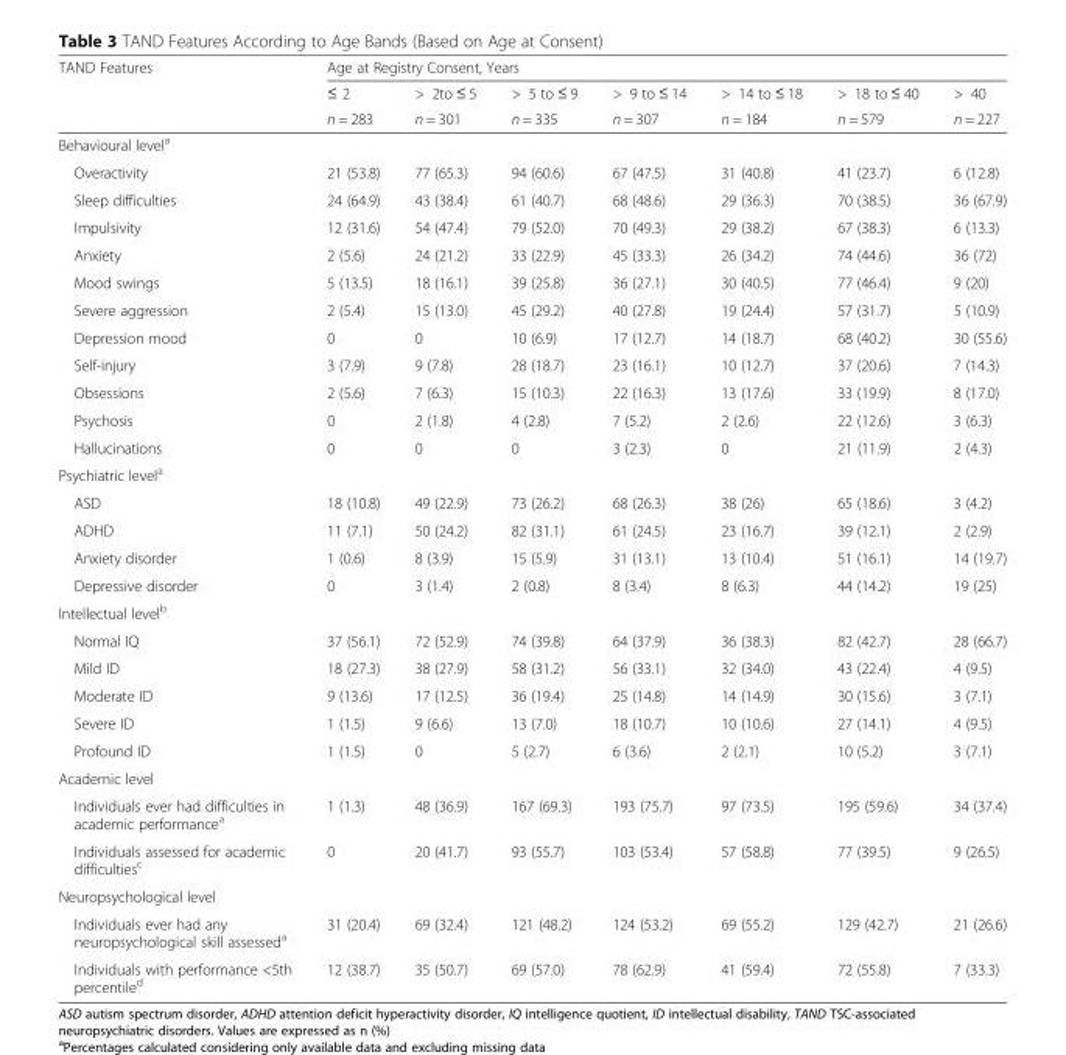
<table><thead><tr><td rowspan="3">TAND Features</td><td colspan="7">Age at Registry Consent, Years</td></tr><tr><td rowspan="2">≤ 2 n = 283</td><td rowspan="2">&gt; 2to ≤ 5 n = 301</td><td rowspan="2">&gt; 5 to ≤ 9 n = 335</td><td rowspan="2">&gt; 9 to ≤ 14 n = 307</td><td rowspan="2">&gt; 14 to ≤ 18 n = 184</td><td rowspan="2">&gt; 18 to ≤ 40 n = 579</td><td rowspan="2">&gt; 40 n = 227</td></tr><tr></tr></thead><tbody><tr><td colspan="8">Behavioural level<sup>a</sup></td></tr><tr><td>Overactivity</td><td>21 (53.8)</td><td>77 (65.3)</td><td>94 (60.6)</td><td>67 (47.5)</td><td>31 (40.8)</td><td>41 (23.7)</td><td>6 (12.8)</td></tr><tr><td>Sleep difficulties</td><td>24 (64.9)</td><td>43 (38.4)</td><td>61 (40.7)</td><td>68 (48.6)</td><td>29 (36.3)</td><td>70 (38.5)</td><td>36 (67.9)</td></tr><tr><td>Impulsivity</td><td>12 (31.6)</td><td>54 (47.4)</td><td>79 (52.0)</td><td>70 (49.3)</td><td>29 (38.2)</td><td>67 (38.3)</td><td>6 (13.3)</td></tr><tr><td>Anxiety</td><td>2 (5.6)</td><td>24 (21.2)</td><td>33 (22.9)</td><td>45 (33.3)</td><td>26 (34.2)</td><td>74 (44.6)</td><td>36 (72)</td></tr><tr><td>Mood swings</td><td>5 (13.5)</td><td>18 (16.1)</td><td>39 (25.8)</td><td>36 (27.1)</td><td>30 (40.5)</td><td>77 (46.4)</td><td>9 (20)</td></tr><tr><td>Severe aggression</td><td>2 (5.4)</td><td>15 (13.0)</td><td>45 (29.2)</td><td>40 (27.8)</td><td>19 (24.4)</td><td>57 (31.7)</td><td>5 (10.9)</td></tr><tr><td>Depression mood</td><td>0</td><td>0</td><td>10 (6.9)</td><td>17 (12.7)</td><td>14 (18.7)</td><td>68 (40.2)</td><td>30 (55.6)</td></tr><tr><td>Self-injury</td><td>3 (7.9)</td><td>9 (7.8)</td><td>28 (18.7)</td><td>23 (16.1)</td><td>10 (12.7)</td><td>37 (20.6)</td><td>7 (14.3)</td></tr><tr><td>Obsessions</td><td>2 (5.6)</td><td>7 (6.3)</td><td>15 (10.3)</td><td>22 (16.3)</td><td>13 (17.6)</td><td>33 (19.9)</td><td>8 (17.0)</td></tr><tr><td>Psychosis</td><td>0</td><td>2 (1.8)</td><td>4 (2.8)</td><td>7 (5.2)</td><td>2 (2.6)</td><td>22 (12.6)</td><td>3 (6.3)</td></tr><tr><td>Hallucinations</td><td>0</td><td>0</td><td>0</td><td>3 (2.3)</td><td>0</td><td>21 (11.9)</td><td>2 (4.3)</td></tr><tr><td colspan="8">Psychiatric level<sup>a</sup></td></tr><tr><td>ASD</td><td>18 (10.8)</td><td>49 (22.9)</td><td>73 (26.2)</td><td>68 (26.3)</td><td>38 (26)</td><td>65 (18.6)</td><td>3 (4.2)</td></tr><tr><td>ADHD</td><td>11 (7.1)</td><td>50 (24.2)</td><td>82 (31.1)</td><td>61 (24.5)</td><td>23 (16.7)</td><td>39 (12.1)</td><td>2 (2.9)</td></tr><tr><td>Anxiety disorder</td><td>1 (0.6)</td><td>8 (3.9)</td><td>15 (5.9)</td><td>31 (13.1)</td><td>13 (10.4)</td><td>51 (16.1)</td><td>14 (19.7)</td></tr><tr><td>Depressive disorder</td><td>0</td><td>3 (1.4)</td><td>2 (0.8)</td><td>8 (3.4)</td><td>8 (6.3)</td><td>44 (14.2)</td><td>19 (25)</td></tr><tr><td colspan="8">Intellectual level<sup>b</sup></td></tr><tr><td>Normal IQ</td><td>37 (56.1)</td><td>72 (52.9)</td><td>74 (39.8)</td><td>64 (37.9)</td><td>36 (38.3)</td><td>82 (42.7)</td><td>28 (66.7)</td></tr><tr><td>Mild ID</td><td>18 (27.3)</td><td>38 (27.9)</td><td>58 (31.2)</td><td>56 (33.1)</td><td>32 (34.0)</td><td>43 (22.4)</td><td>4 (9.5)</td></tr><tr><td>Moderate ID</td><td>9 (13.6)</td><td>17 (12.5)</td><td>36 (19.4)</td><td>25 (14.8)</td><td>14 (14.9)</td><td>30 (15.6)</td><td>3 (7.1)</td></tr><tr><td>Severe ID</td><td>1 (1.5)</td><td>9 (6.6)</td><td>13 (7.0)</td><td>18 (10.7)</td><td>10 (10.6)</td><td>27 (14.1)</td><td>4 (9.5)</td></tr><tr><td>Profound ID</td><td>1 (1.5)</td><td>0</td><td>5 (2.7)</td><td>6 (3.6)</td><td>2 (2.1)</td><td>10 (5.2)</td><td>3 (7.1)</td></tr><tr><td colspan="8">Academic level</td></tr><tr><td>Individuals ever had difficulties in academic performance<sup>a</sup></td><td>1 (1.3)</td><td>48 (36.9)</td><td>167 (69.3)</td><td>193 (75.7)</td><td>97 (73.5)</td><td>195 (59.6)</td><td>34 (37.4)</td></tr><tr><td>Individuals assessed for academic difficulties<sup>c</sup></td><td>0</td><td>20 (41.7)</td><td>93 (55.7)</td><td>103 (53.4)</td><td>57 (58.8)</td><td>77 (39.5)</td><td>9 (26.5)</td></tr><tr><td colspan="8">Neuropsychological level</td></tr><tr><td>Individuals ever had any neuropsychological skill assessed<sup>a</sup></td><td>31 (20.4)</td><td>69 (32.4)</td><td>121 (48.2)</td><td>124 (53.2)</td><td>69 (55.2)</td><td>129 (42.7)</td><td>21 (26.6)</td></tr><tr><td>Individuals with performance &lt;5th percentile<sup>d</sup></td><td>12 (38.7)</td><td>35 (50.7)</td><td>69 (57.0)</td><td>78 (62.9)</td><td>41 (59.4)</td><td>72 (55.8)</td><td>7 (33.3)</td></tr></tbody></table>